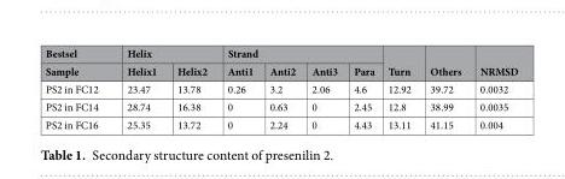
<table><thead><tr><td rowspan="2">Bestsel Sample</td><td colspan="2">Helix</td><td colspan="4">Strand</td><td rowspan="2">Turn</td><td rowspan="2">Others</td><td rowspan="2">NRMSD</td></tr><tr><td>Helix1</td><td>Helix2</td><td>Anti1</td><td>Anti2</td><td>Anti3</td><td>Para</td></tr></thead><tbody><tr><td>PS2 in FC12</td><td>23.47</td><td>13.78</td><td>0.26</td><td>3.2</td><td>2.06</td><td>4.6</td><td>12.92</td><td>39.72</td><td>0.0032</td></tr><tr><td>PS2 in FC14</td><td>28.74</td><td>16.38</td><td>0</td><td>0.63</td><td>0</td><td>2.45</td><td>12.8</td><td>38.99</td><td>0.0035</td></tr><tr><td>PS2 in FC16</td><td>25.35</td><td>13.72</td><td>0</td><td>2.24</td><td>0</td><td>4.43</td><td>13.11</td><td>41.15</td><td>0.004</td></tr></tbody></table>